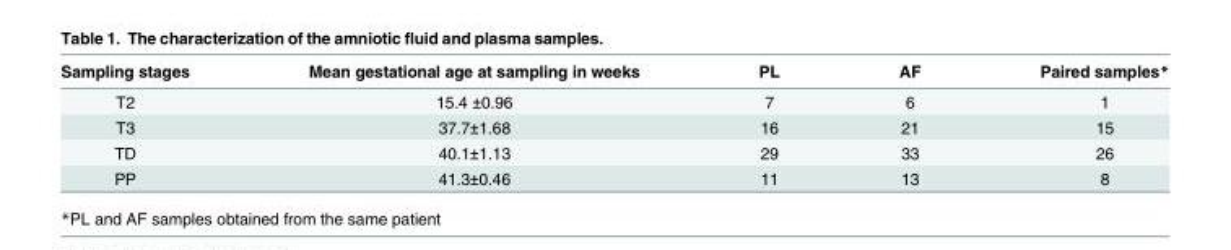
<table><thead><tr><td>Sampling stages</td><td>Mean gestational age at sampling in weeks</td><td>PL</td><td>AF</td><td>Paired samples*</td></tr></thead><tbody><tr><td>T2</td><td>15.4 ±0.96</td><td>7</td><td>6</td><td>1</td></tr><tr><td>T3</td><td>37.7±1.68</td><td>16</td><td>21</td><td>15</td></tr><tr><td>TD</td><td>40.1±1.13</td><td>29</td><td>33</td><td>26</td></tr><tr><td>PP</td><td>41.3±0.46</td><td>11</td><td>13</td><td>8</td></tr></tbody></table>